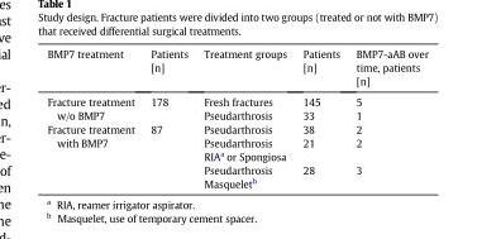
<table><thead><tr><td>BMP7 treatment</td><td>Patients [n]</td><td>Treatment groups</td><td>Patients [n]</td><td>BMP7-aAB over time, patients [n]</td></tr></thead><tbody><tr><td rowspan="2">Fracture treatment w/o BMP7</td><td rowspan="2">178</td><td>Fresh fractures</td><td>145</td><td>5</td></tr><tr><td>Pseudarthrosis</td><td>33</td><td>1</td></tr><tr><td rowspan="3">Fracture treatment with BMP7</td><td rowspan="3">87</td><td>Pseudarthrosis</td><td>38</td><td>2</td></tr><tr><td>Pseudarthrosis RIA<sup>a</sup> or Spongiosa</td><td>21</td><td>2</td></tr><tr><td>Pseudarthrosis Masquelet<sup>b</sup></td><td>28</td><td>3</td></tr></tbody></table>